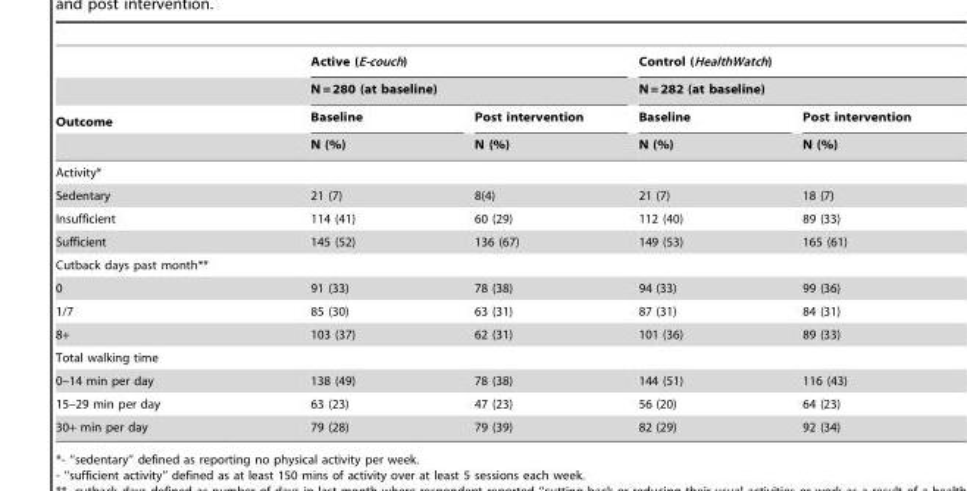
<table><thead><tr><td rowspan="4">Outcome</td><td rowspan="2" colspan="2">Active (E-couch) N = 280 (at baseline)</td><td rowspan="2" colspan="2">Control (HealthWatch) N = 282 (at baseline)</td></tr><tr></tr><tr><td rowspan="2">Baseline N (%)</td><td rowspan="2">Post intervention N (%)</td><td rowspan="2">Baseline N (%)</td><td rowspan="2">Post intervention N (%)</td></tr><tr></tr></thead><tbody><tr><td colspan="5">Activity*</td></tr><tr><td>Sedentary</td><td>21 (7)</td><td>8(4)</td><td>21 (7)</td><td>18 (7)</td></tr><tr><td>Insufficient</td><td>114 (41)</td><td>60 (29)</td><td>112 (40)</td><td>89 (33)</td></tr><tr><td>Sufficient</td><td>145 (52)</td><td>136 (67)</td><td>149 (53)</td><td>165 (61)</td></tr><tr><td colspan="5">Cutback days past month**</td></tr><tr><td>0</td><td>91 (33)</td><td>78 (38)</td><td>94 (33)</td><td>99 (36)</td></tr><tr><td>1/7</td><td>85 (30)</td><td>63 (31)</td><td>87 (31)</td><td>84 (31)</td></tr><tr><td>8+</td><td>103 (37)</td><td>62 (31)</td><td>101 (36)</td><td>89 (33)</td></tr><tr><td colspan="5">Total walking time</td></tr><tr><td>0–14 min per day</td><td>138 (49)</td><td>78 (38)</td><td>144 (51)</td><td>116 (43)</td></tr><tr><td>15–29 min per day</td><td>63 (23)</td><td>47 (23)</td><td>56 (20)</td><td>64 (23)</td></tr><tr><td>30+ min per day</td><td>79 (28)</td><td>79 (39)</td><td>82 (29)</td><td>92 (34)</td></tr></tbody></table>